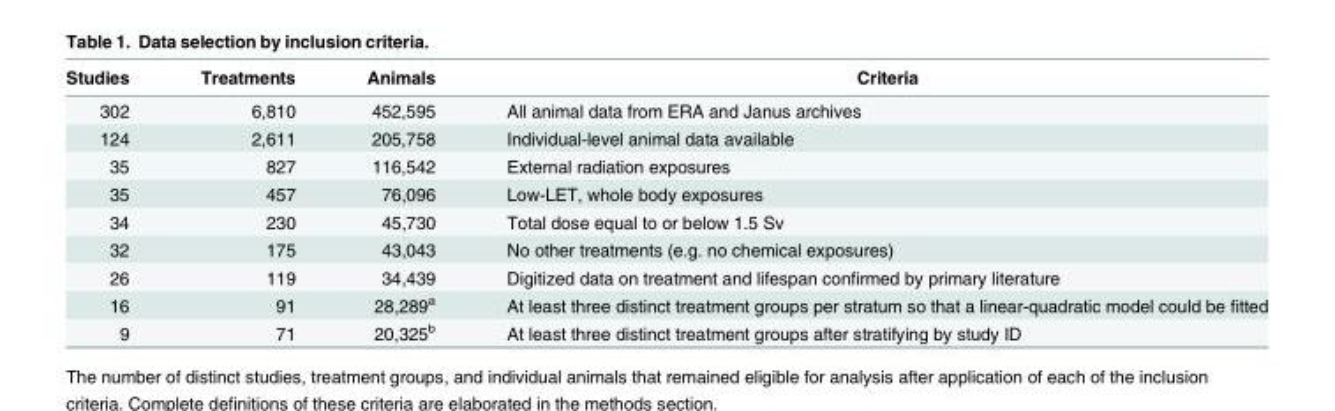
<table><thead><tr><td>Studies</td><td>Treatments</td><td>Animals</td><td>Criteria</td></tr></thead><tbody><tr><td>302</td><td>6,810</td><td>452,595</td><td>All animal data from ERA and Janus archives</td></tr><tr><td>124</td><td>2,611</td><td>205,758</td><td>Individual-level animal data available</td></tr><tr><td>35</td><td>827</td><td>116,542</td><td>External radiation exposures</td></tr><tr><td>35</td><td>457</td><td>76,096</td><td>Low-LET, whole body exposures</td></tr><tr><td>34</td><td>230</td><td>45,730</td><td>Total dose equal to or below 1.5 Sv</td></tr><tr><td>32</td><td>175</td><td>43,043</td><td>No other treatments (e.g. no chemical exposures)</td></tr><tr><td>26</td><td>119</td><td>34,439</td><td>Digitized data on treatment and lifespan confirmed by primary literature</td></tr><tr><td>16</td><td>91</td><td>28,289<sup>a</sup></td><td>At least three distinct treatment groups per stratum so that a linear-quadratic model could be fitted</td></tr><tr><td>9</td><td>71</td><td>20,325<sup>b</sup></td><td>At least three distinct treatment groups after stratifying by study ID</td></tr></tbody></table>